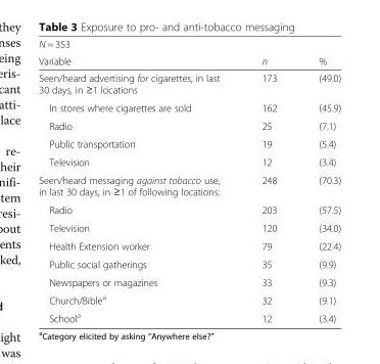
<table><thead><tr><td rowspan="2">N = 353 Variable</td><td rowspan="2">n</td><td rowspan="2">%</td></tr><tr></tr></thead><tbody><tr><td>Seen/heard advertising for cigarettes, in last 30 days, in ≥1 locations</td><td>173</td><td>(49.0)</td></tr><tr><td>In stores where cigarettes are sold</td><td>162</td><td>(45.9)</td></tr><tr><td>Radio</td><td>25</td><td>(7.1)</td></tr><tr><td>Public transportation</td><td>19</td><td>(5.4)</td></tr><tr><td>Television</td><td>12</td><td>(3.4)</td></tr><tr><td>Seen/heard messaging against tobacco use, in last 30 days, in ≥1 of following locations:</td><td>248</td><td>(70.3)</td></tr><tr><td>Radio</td><td>203</td><td>(57.5)</td></tr><tr><td>Television</td><td>120</td><td>(34.0)</td></tr><tr><td>Health Extension worker</td><td>79</td><td>(22.4)</td></tr><tr><td>Public social gatherings</td><td>35</td><td>(9.9)</td></tr><tr><td>Newspapers or magazines</td><td>33</td><td>(9.3)</td></tr><tr><td>Church/Bible<sup>a</sup></td><td>32</td><td>(9.1)</td></tr><tr><td>School<sup>a</sup></td><td>12</td><td>(3.4)</td></tr></tbody></table>